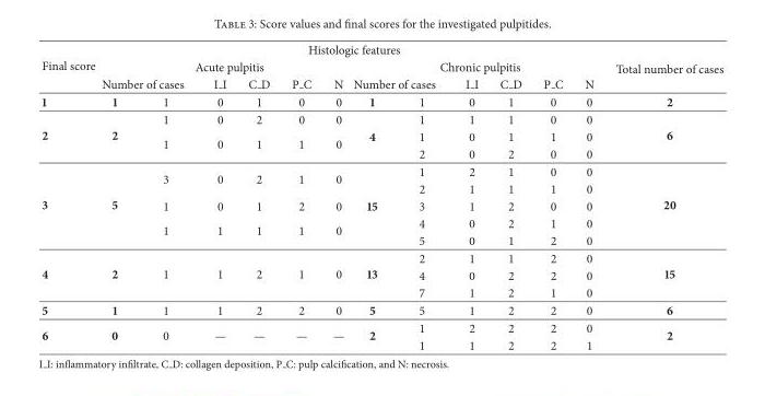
<table><thead><tr><td rowspan="4">Final score 1</td><td colspan="12">Histologic features</td><td rowspan="4">Total number of cases 2</td></tr><tr><td colspan="6">Acute pulpitis</td><td colspan="6">Chronic pulpitis</td></tr><tr><td colspan="2">Number of cases</td><td rowspan="2">I I 0</td><td rowspan="2">C D 1</td><td rowspan="2">P C 0</td><td rowspan="2">N 0</td><td colspan="2">Number of cases</td><td rowspan="2">I I 0</td><td rowspan="2">C D 1</td><td rowspan="2">P C 0</td><td rowspan="2">N 0</td></tr><tr><td>1</td><td>1</td><td>1</td><td>1</td></tr></thead><tbody><tr><td rowspan="3">2</td><td rowspan="3">2</td><td>1</td><td>0</td><td>2</td><td>0</td><td>0</td><td></td><td>1</td><td>1</td><td>1</td><td>0</td><td>0</td><td rowspan="3">6</td></tr><tr><td rowspan="2">1</td><td rowspan="2">0</td><td rowspan="2">1</td><td rowspan="2">1</td><td rowspan="2">0</td><td>4</td><td>1</td><td>0</td><td>1</td><td>1</td><td>0</td></tr><tr><td></td><td>2</td><td>0</td><td>2</td><td>0</td><td>0</td></tr><tr><td rowspan="5">3</td><td rowspan="5">5</td><td rowspan="2">3</td><td rowspan="2">0</td><td rowspan="2">2</td><td rowspan="2">1</td><td rowspan="2">0</td><td></td><td>1</td><td>2</td><td>1</td><td>0</td><td>0</td><td rowspan="5">20</td></tr><tr><td></td><td>2</td><td>1</td><td>1</td><td>1</td><td>0</td></tr><tr><td>1</td><td>0</td><td>1</td><td>2</td><td>0</td><td>15</td><td>3</td><td>1</td><td>2</td><td>0</td><td>0</td></tr><tr><td rowspan="2">1</td><td rowspan="2">1</td><td rowspan="2">1</td><td rowspan="2">1</td><td rowspan="2">0</td><td></td><td>4</td><td>0</td><td>2</td><td>1</td><td>0</td></tr><tr><td></td><td>5</td><td>0</td><td>1</td><td>2</td><td>0</td></tr><tr><td rowspan="3">4</td><td rowspan="3">2</td><td rowspan="3">1</td><td rowspan="3">1</td><td rowspan="3">2</td><td rowspan="3">1</td><td rowspan="3">0</td><td rowspan="3">13</td><td>2</td><td>1</td><td>1</td><td>2</td><td>0</td><td rowspan="3">15</td></tr><tr><td>4</td><td>0</td><td>2</td><td>2</td><td>0</td></tr><tr><td>7</td><td>1</td><td>2</td><td>1</td><td>0</td></tr><tr><td>5</td><td>1</td><td>1</td><td>1</td><td>2</td><td>2</td><td>0</td><td>5</td><td>5</td><td>1</td><td>2</td><td>2</td><td>0</td><td>6</td></tr><tr><td rowspan="2">6</td><td rowspan="2">0</td><td rowspan="2">0</td><td rowspan="2">—</td><td rowspan="2">—</td><td rowspan="2">—</td><td rowspan="2">—</td><td rowspan="2">2</td><td>1</td><td>2</td><td>2</td><td>2</td><td>0</td><td rowspan="2">2</td></tr><tr><td>1</td><td>1</td><td>2</td><td>2</td><td>1</td></tr></tbody></table>